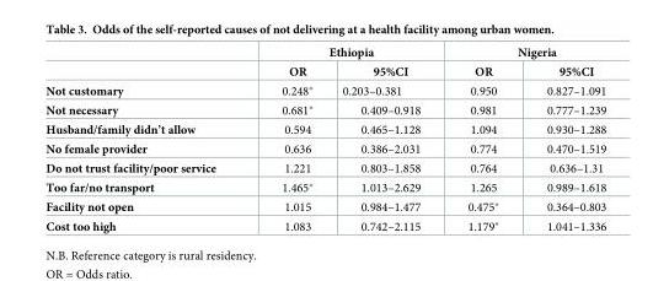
<table><thead><tr><td rowspan="2"></td><td colspan="2">Ethiopia</td><td colspan="2">Nigeria</td></tr><tr><td>OR</td><td>95%CI</td><td>OR</td><td>95%CI</td></tr></thead><tbody><tr><td>Not customary</td><td>0.248*</td><td>0.203–0.381</td><td>0.950</td><td>0.827–1.091</td></tr><tr><td>Not necessary</td><td>0.681*</td><td>0.409–0.918</td><td>0.981</td><td>0.777–1.239</td></tr><tr><td>Husband/family didn’t allow</td><td>0.594</td><td>0.465–1.128</td><td>1.094</td><td>0.930–1.288</td></tr><tr><td>No female provider</td><td>0.636</td><td>0.386–2.031</td><td>0.774</td><td>0.470–1.519</td></tr><tr><td>Do not trust facility/poor service</td><td>1.221</td><td>0.803–1.858</td><td>0.764</td><td>0.636–1.31</td></tr><tr><td>Too far/no transport</td><td>1.465*</td><td>1.013–2.629</td><td>1.265</td><td>0.989–1.618</td></tr><tr><td>Facility not open</td><td>1.015</td><td>0.984–1.477</td><td>0.475*</td><td>0.364–0.803</td></tr><tr><td>Cost too high</td><td>1.083</td><td>0.742–2.115</td><td>1.179*</td><td>1.041–1.336</td></tr></tbody></table>